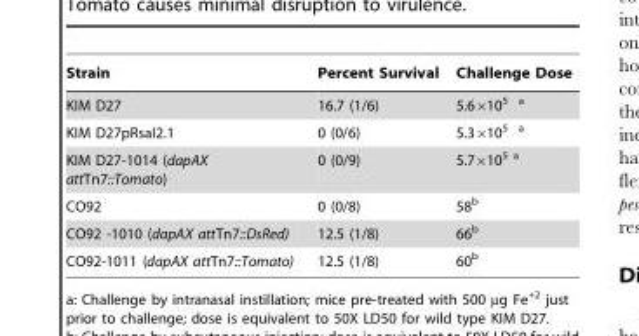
<table><thead><tr><td>Strain</td><td>Percent Survival</td><td>Challenge Dose</td></tr></thead><tbody><tr><td>KIM D27</td><td>16.7 (1/6)</td><td>5.6×10<sup>5</sup> a</td></tr><tr><td>KIM D27pRsaI2.1</td><td>0 (0/6)</td><td>5.3×10<sup>5</sup> a</td></tr><tr><td>KIM D27-1014 (dapAX attTn7::Tomato)</td><td>0 (0/9)</td><td>5.7×10<sup>5</sup> a</td></tr><tr><td>CO92</td><td>0 (0/8)</td><td>58<sup>b</sup></td></tr><tr><td>CO92 -1010 (dapAX attTn7::DsRed)</td><td>12.5 (1/8)</td><td>66<sup>b</sup></td></tr><tr><td>CO92-1011 (dapAX attTn7::Tomato)</td><td>12.5 (1/8)</td><td>60<sup>b</sup></td></tr></tbody></table>